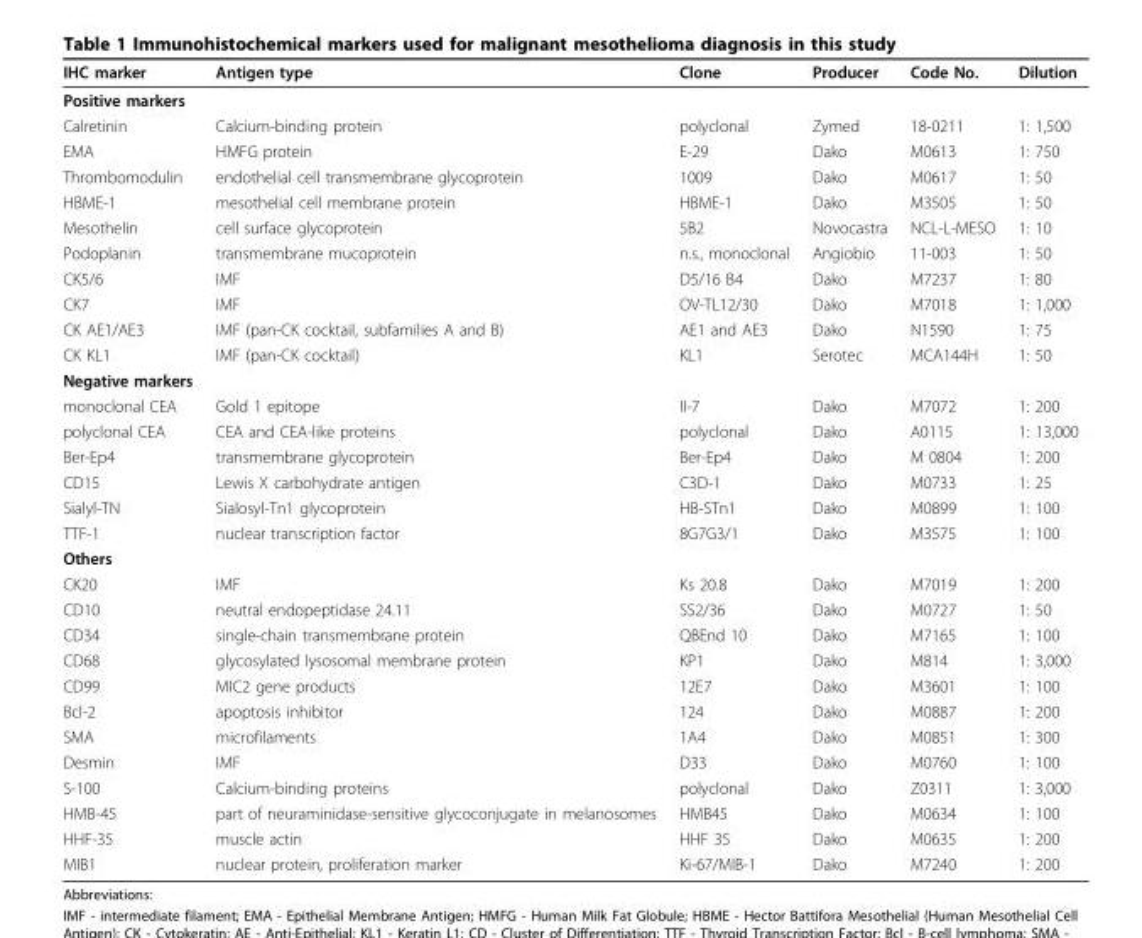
<table><thead><tr><td>IHC marker</td><td>Antigen type</td><td>Clone</td><td>Producer</td><td>Code No.</td><td>Dilution</td></tr></thead><tbody><tr><td colspan="6">Positive markers</td></tr><tr><td>Calretinin</td><td>Calcium-binding protein</td><td>polyclonal</td><td>Zymed</td><td>18-0211</td><td>1: 1,500</td></tr><tr><td>EMA</td><td>HMFG protein</td><td>E-29</td><td>Dako</td><td>M0613</td><td>1: 750</td></tr><tr><td>Thrombomodulin</td><td>endothelial cell transmembrane glycoprotein</td><td>1009</td><td>Dako</td><td>M0617</td><td>1: 50</td></tr><tr><td>HBME-1</td><td>mesothelial cell membrane protein</td><td>HBME-1</td><td>Dako</td><td>M3505</td><td>1: 50</td></tr><tr><td>Mesothelin</td><td>cell surface glycoprotein</td><td>5B2</td><td>Novocastra</td><td>NCL-L-MESO</td><td>1: 10</td></tr><tr><td>Podoplanin</td><td>transmembrane mucoprotein</td><td>n.s., monoclonal</td><td>Angiobio</td><td>11-003</td><td>1: 50</td></tr><tr><td>CK5/6</td><td>IMF</td><td>D5/16 B4</td><td>Dako</td><td>M7237</td><td>1: 80</td></tr><tr><td>CK7</td><td>IMF</td><td>OV-TL12/30</td><td>Dako</td><td>M7018</td><td>1: 1,000</td></tr><tr><td>CK AE1/AE3</td><td>IMF (pan-CK cocktail, subfamilies A and B)</td><td>AE1 and AE3</td><td>Dako</td><td>N1590</td><td>1: 75</td></tr><tr><td>CK KL1</td><td>IMF (pan-CK cocktail)</td><td>KL1</td><td>Serotec</td><td>MCA144H</td><td>1: 50</td></tr><tr><td colspan="6">Negative markers</td></tr><tr><td>monoclonal CEA</td><td>Gold 1 epitope</td><td>II-7</td><td>Dako</td><td>M7072</td><td>1: 200</td></tr><tr><td>polyclonal CEA</td><td>CEA and CEA-like proteins</td><td>polyclonal</td><td>Dako</td><td>A0115</td><td>1: 13,000</td></tr><tr><td>Ber-Ep4</td><td>transmembrane glycoprotein</td><td>Ber-Ep4</td><td>Dako</td><td>M 0804</td><td>1: 200</td></tr><tr><td>CD15</td><td>Lewis X carbohydrate antigen</td><td>C3D-1</td><td>Dako</td><td>M0733</td><td>1: 25</td></tr><tr><td>Sialyl-TN</td><td>Sialosyl-Tn1 glycoprotein</td><td>HB-STn1</td><td>Dako</td><td>M0899</td><td>1: 100</td></tr><tr><td>TTF-1</td><td>nuclear transcription factor</td><td>8G7G3/1</td><td>Dako</td><td>M3575</td><td>1: 100</td></tr><tr><td colspan="6">Others</td></tr><tr><td>CK20</td><td>IMF</td><td>Ks 20.8</td><td>Dako</td><td>M7019</td><td>1: 200</td></tr><tr><td>CD10</td><td>neutral endopeptidase 24.11</td><td>SS2/36</td><td>Dako</td><td>M0727</td><td>1: 50</td></tr><tr><td>CD34</td><td>single-chain transmembrane protein</td><td>QBEnd 10</td><td>Dako</td><td>M7165</td><td>1: 100</td></tr><tr><td>CD68</td><td>glycosylated lysosomal membrane protein</td><td>KP1</td><td>Dako</td><td>M814</td><td>1: 3,000</td></tr><tr><td>CD99</td><td>MIC2 gene products</td><td>12E7</td><td>Dako</td><td>M3601</td><td>1: 100</td></tr><tr><td>Bcl-2</td><td>apoptosis inhibitor</td><td>124</td><td>Dako</td><td>M0887</td><td>1: 200</td></tr><tr><td>SMA</td><td>microfilaments</td><td>1A4</td><td>Dako</td><td>M0851</td><td>1: 300</td></tr><tr><td>Desmin</td><td>IMF</td><td>D33</td><td>Dako</td><td>M0760</td><td>1: 100</td></tr><tr><td>S-100</td><td>Calcium-binding proteins</td><td>polyclonal</td><td>Dako</td><td>Z0311</td><td>1: 3,000</td></tr><tr><td>HMB-45</td><td>part of neuraminidase-sensitive glycoconjugate in melanosomes</td><td>HMB45</td><td>Dako</td><td>M0634</td><td>1: 100</td></tr><tr><td>HHF-35</td><td>muscle actin</td><td>HHF 35</td><td>Dako</td><td>M0635</td><td>1: 200</td></tr><tr><td>MIB1</td><td>nuclear protein, proliferation marker</td><td>Ki-67/MIB-1</td><td>Dako</td><td>M7240</td><td>1: 200</td></tr></tbody></table>